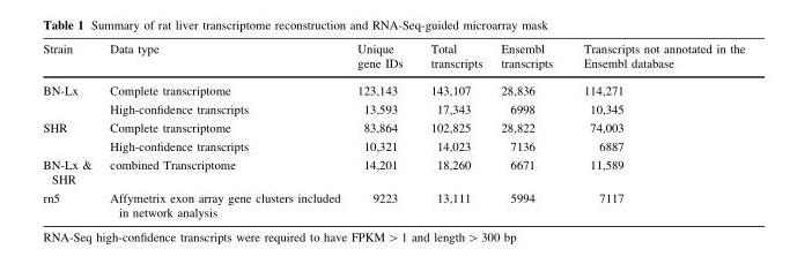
<table><thead><tr><td>Strain</td><td>Data type</td><td>Unique gene IDs</td><td>Total transcripts</td><td>Ensembl transcripts</td><td>Transcripts not annotated in the Ensembl database</td></tr></thead><tbody><tr><td rowspan="2">BN-Lx</td><td>Complete transcriptome</td><td>123,143</td><td>143,107</td><td>28,836</td><td>114,271</td></tr><tr><td>High-confidence transcripts</td><td>13,593</td><td>17,343</td><td>6998</td><td>10,345</td></tr><tr><td rowspan="2">SHR</td><td>Complete transcriptome</td><td>83,864</td><td>102,825</td><td>28,822</td><td>74,003</td></tr><tr><td>High-confidence transcripts</td><td>10,321</td><td>14,023</td><td>7136</td><td>6887</td></tr><tr><td>BN-Lx &amp; SHR</td><td>combined Transcriptome</td><td>14,201</td><td>18,260</td><td>6671</td><td>11,589</td></tr><tr><td>rn5</td><td>Affymetrix exon array gene clusters included in network analysis</td><td>9223</td><td>13,111</td><td>5994</td><td>7117</td></tr></tbody></table>